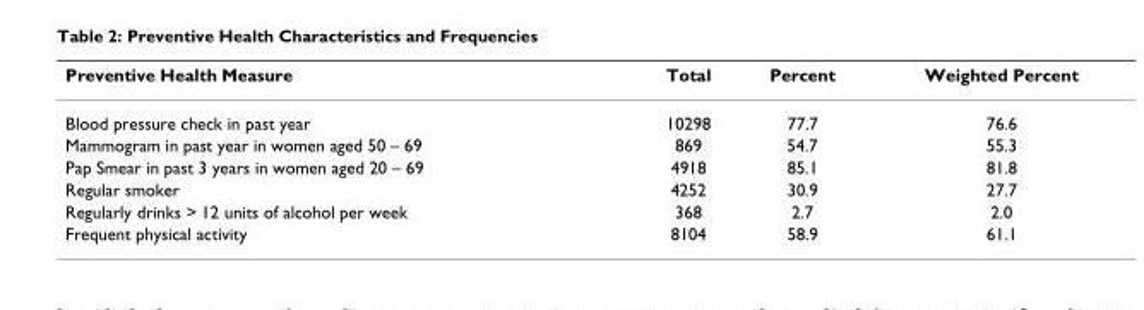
<table><thead><tr><td>Preventive Health Measure</td><td>Total</td><td>Percent</td><td>Weighted Percent</td></tr></thead><tbody><tr><td>Blood pressure check in past year</td><td>10298</td><td>77.7</td><td>76.6</td></tr><tr><td>Mammogram in past year in women aged 50 – 69</td><td>869</td><td>54.7</td><td>55.3</td></tr><tr><td>Pap Smear in past 3 years in women aged 20 – 69</td><td>4918</td><td>85.1</td><td>81.8</td></tr><tr><td>Regular smoker</td><td>4252</td><td>30.9</td><td>27.7</td></tr><tr><td>Regularly drinks &gt; 12 units of alcohol per week</td><td>368</td><td>2.7</td><td>2.0</td></tr><tr><td>Frequent physical activity</td><td>8104</td><td>58.9</td><td>61.1</td></tr></tbody></table>